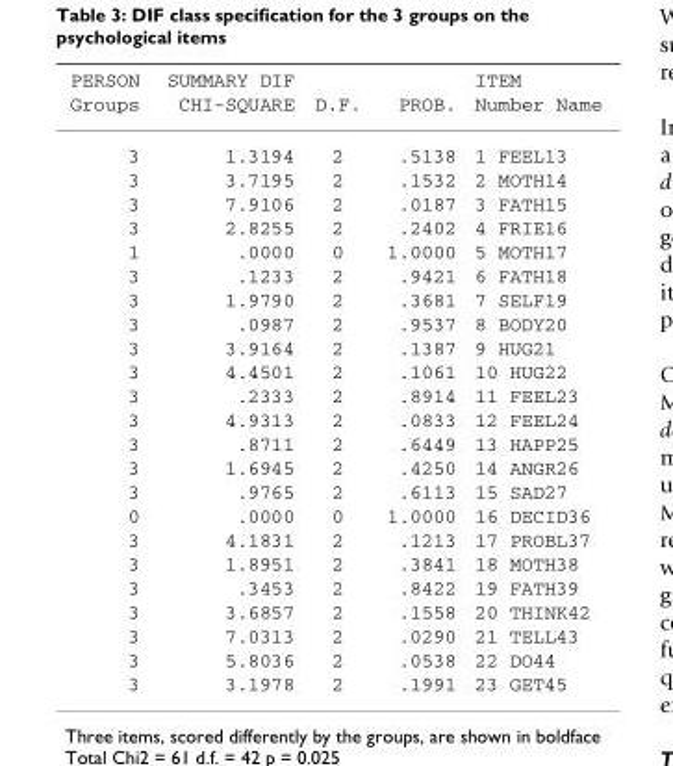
<table><thead><tr><td rowspan="2">PERSON Groups</td><td rowspan="2">SUMMARY DIF CHI-SQUARE</td><td rowspan="2">D.F.</td><td rowspan="2">PROB.</td><td rowspan="2">ITEM Number Name</td></tr><tr></tr></thead><tbody><tr><td>3</td><td>1.3194</td><td>2</td><td>.5138</td><td>1 FEEL13</td></tr><tr><td>3</td><td>3.7195</td><td>2</td><td>.1532</td><td>2 MOTH14</td></tr><tr><td>3</td><td>7.9106</td><td>2</td><td>.0187</td><td>3 FATH15</td></tr><tr><td>3</td><td>2.8255</td><td>2</td><td>.2402</td><td>4 FRIE16</td></tr><tr><td>1</td><td>.0000</td><td>0</td><td>1.0000</td><td>5 MOTH17</td></tr><tr><td>3</td><td>.1233</td><td>2</td><td>.9421</td><td>6 FATH18</td></tr><tr><td>3</td><td>1.9790</td><td>2</td><td>.3681</td><td>7 SELF19</td></tr><tr><td>3</td><td>.0987</td><td>2</td><td>.9537</td><td>8 BODY20</td></tr><tr><td>3</td><td>3.9164</td><td>2</td><td>.1387</td><td>9 HUG21</td></tr><tr><td>3</td><td>4.4501</td><td>2</td><td>.1061</td><td>10 HUG22</td></tr><tr><td>3</td><td>.2333</td><td>2</td><td>.8914</td><td>11 FEEL23</td></tr><tr><td>3</td><td>4.9313</td><td>2</td><td>.0833</td><td>12 FEEL24</td></tr><tr><td>3</td><td>.8711</td><td>2</td><td>.6449</td><td>13 HAPP25</td></tr><tr><td>3</td><td>1.6945</td><td>2</td><td>.4250</td><td>14 ANGR26</td></tr><tr><td>3</td><td>.9765</td><td>2</td><td>.6113</td><td>15 SAD27</td></tr><tr><td>0</td><td>.0000</td><td>0</td><td>1.0000</td><td>16 DECID36</td></tr><tr><td>3</td><td>4.1831</td><td>2</td><td>.1213</td><td>17 PROBL37</td></tr><tr><td>3</td><td>1.8951</td><td>2</td><td>.3841</td><td>18 MOTH38</td></tr><tr><td>3</td><td>.3453</td><td>2</td><td>.8422</td><td>19 FATH39</td></tr><tr><td>3</td><td>3.6857</td><td>2</td><td>.1558</td><td>20 THINK42</td></tr><tr><td>3</td><td>7.0313</td><td>2</td><td>.0290</td><td>21 TELL43</td></tr><tr><td>3</td><td>5.8036</td><td>2</td><td>.0538</td><td>22 DO44</td></tr><tr><td>3</td><td>3.1978</td><td>2</td><td>.1991</td><td>23 GET45</td></tr></tbody></table>